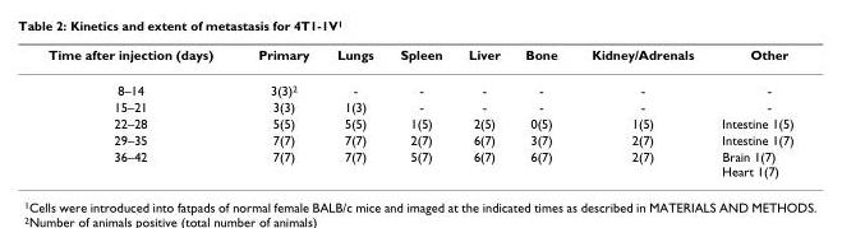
<table><thead><tr><td>Time after injection (days)</td><td>Primary</td><td>Lungs</td><td>Spleen</td><td>Liver</td><td>Bone</td><td>Kidney/Adrenals</td><td>Other</td></tr></thead><tbody><tr><td>8–14</td><td>3(3)<sup>2</sup></td><td>-</td><td>-</td><td>-</td><td>-</td><td>-</td><td>-</td></tr><tr><td>15–21</td><td>3(3)</td><td>1(3)</td><td>-</td><td>-</td><td>-</td><td>-</td><td>-</td></tr><tr><td>22–28</td><td>5(5)</td><td>5(5)</td><td>1(5)</td><td>2(5)</td><td>0(5)</td><td>1(5)</td><td>Intestine 1(5)</td></tr><tr><td>29–35</td><td>7(7)</td><td>7(7)</td><td>2(7)</td><td>6(7)</td><td>3(7)</td><td>2(7)</td><td>Intestine 1(7)</td></tr><tr><td>36–42</td><td>7(7)</td><td>7(7)</td><td>5(7)</td><td>6(7)</td><td>6(7)</td><td>2(7)</td><td>Brain 1(7) Heart 1(7)</td></tr></tbody></table>